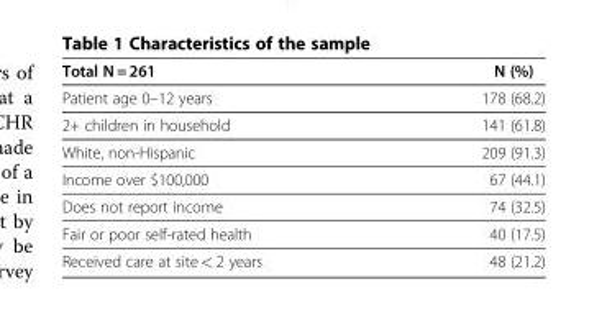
<table><thead><tr><td>Total N = 261</td><td>N (%)</td></tr></thead><tbody><tr><td>Patient age 0–12 years</td><td>178 (68.2)</td></tr><tr><td>2+ children in household</td><td>141 (61.8)</td></tr><tr><td>White, non-Hispanic</td><td>209 (91.3)</td></tr><tr><td>Income over $100,000</td><td>67 (44.1)</td></tr><tr><td>Does not report income</td><td>74 (32.5)</td></tr><tr><td>Fair or poor self-rated health</td><td>40 (17.5)</td></tr><tr><td>Received care at site &lt; 2 years</td><td>48 (21.2)</td></tr></tbody></table>